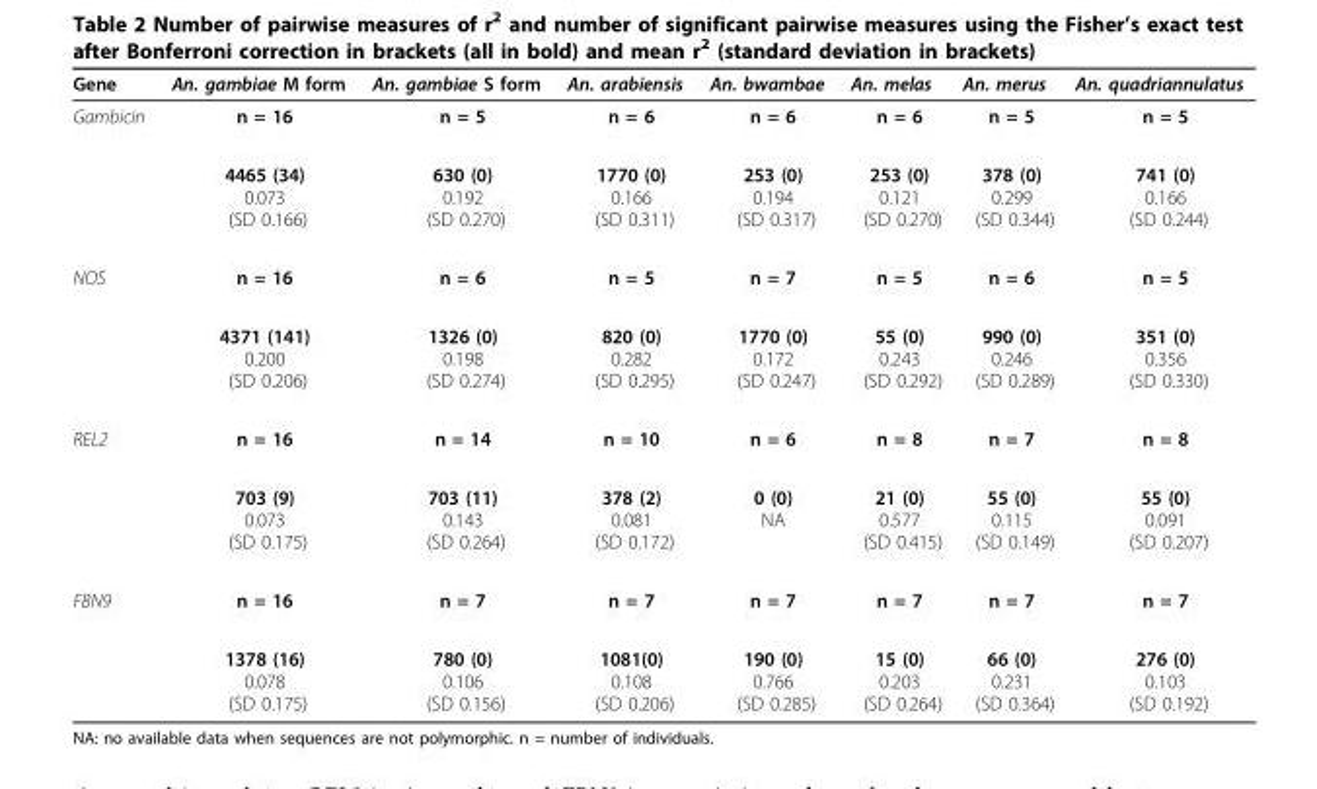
<table><thead><tr><td>Gene</td><td>An. gambiae M form</td><td>An. gambiae S form</td><td>An. arabiensis</td><td>An. bwambae</td><td>An. melas</td><td>An. merus</td><td>An. quadriannulatus</td></tr></thead><tbody><tr><td rowspan="2">Gambicin</td><td>n = 16</td><td>n = 5</td><td>n = 6</td><td>n = 6</td><td>n = 6</td><td>n = 5</td><td>n = 5</td></tr><tr><td>4465 (34) 0.073 (SD 0.166)</td><td>630 (0) 0.192 (SD 0.270)</td><td>1770 (0) 0.166 (SD 0.311)</td><td>253 (0) 0.194 (SD 0.317)</td><td>253 (0) 0.121 (SD 0.270)</td><td>378 (0) 0.299 (SD 0.344)</td><td>741 (0) 0.166 (SD 0.244)</td></tr><tr><td rowspan="2">NOS</td><td>n = 16</td><td>n = 6</td><td>n = 5</td><td>n = 7</td><td>n = 5</td><td>n = 6</td><td>n = 5</td></tr><tr><td>4371 (141) 0.200 (SD 0.206)</td><td>1326 (0) 0.198 (SD 0.274)</td><td>820 (0) 0.282 (SD 0.295)</td><td>1770 (0) 0.172 (SD 0.247)</td><td>55 (0) 0.243 (SD 0.292)</td><td>990 (0) 0.246 (SD 0.289)</td><td>351 (0) 0.356 (SD 0.330)</td></tr><tr><td rowspan="2">REL2</td><td>n = 16</td><td>n = 14</td><td>n = 10</td><td>n = 6</td><td>n = 8</td><td>n = 7</td><td>n = 8</td></tr><tr><td>703 (9) 0.073 (SD 0.175)</td><td>703 (11) 0.143 (SD 0.264)</td><td>378 (2) 0.081 (SD 0.172)</td><td>0 (0) NA</td><td>21 (0) 0.577 (SD 0.415)</td><td>55 (0) 0.115 (SD 0.149)</td><td>55 (0) 0.091 (SD 0.207)</td></tr><tr><td rowspan="2">FBN9</td><td>n = 16</td><td>n = 7</td><td>n = 7</td><td>n = 7</td><td>n = 7</td><td>n = 7</td><td>n = 7</td></tr><tr><td>1378 (16) 0.078 (SD 0.175)</td><td>780 (0) 0.106 (SD 0.156)</td><td>1081(0) 0.108 (SD 0.206)</td><td>190 (0) 0.766 (SD 0.285)</td><td>15 (0) 0.203 (SD 0.264)</td><td>66 (0) 0.231 (SD 0.364)</td><td>276 (0) 0.103 (SD 0.192)</td></tr></tbody></table>